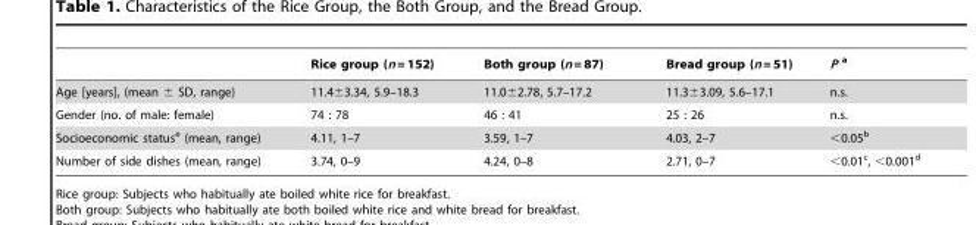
<table><thead><tr><td></td><td>Rice group (n = 152)</td><td>Both group (n = 87)</td><td>Bread group (n = 51)</td><td>P a</td></tr></thead><tbody><tr><td>Age [years], (mean ± SD, range)</td><td>11.4±3.34, 5.9–18.3</td><td>11.0±2.78, 5.7–17.2</td><td>11.3±3.09, 5.6–17.1</td><td>n.s.</td></tr><tr><td>Gender (no. of male: female)</td><td>74 : 78</td><td>46 : 41</td><td>25 : 26</td><td>n.s.</td></tr><tr><td>Socioeconomic status<sup>e</sup> (mean, range)</td><td>4.11, 1–7</td><td>3.59, 1–7</td><td>4.03, 2–7</td><td>&lt;0.05<sup>b</sup></td></tr><tr><td>Number of side dishes (mean, range)</td><td>3.74, 0–9</td><td>4.24, 0–8</td><td>2.71, 0–7</td><td>&lt;0.01<sup>c</sup>, &lt;0.001<sup>d</sup></td></tr></tbody></table>